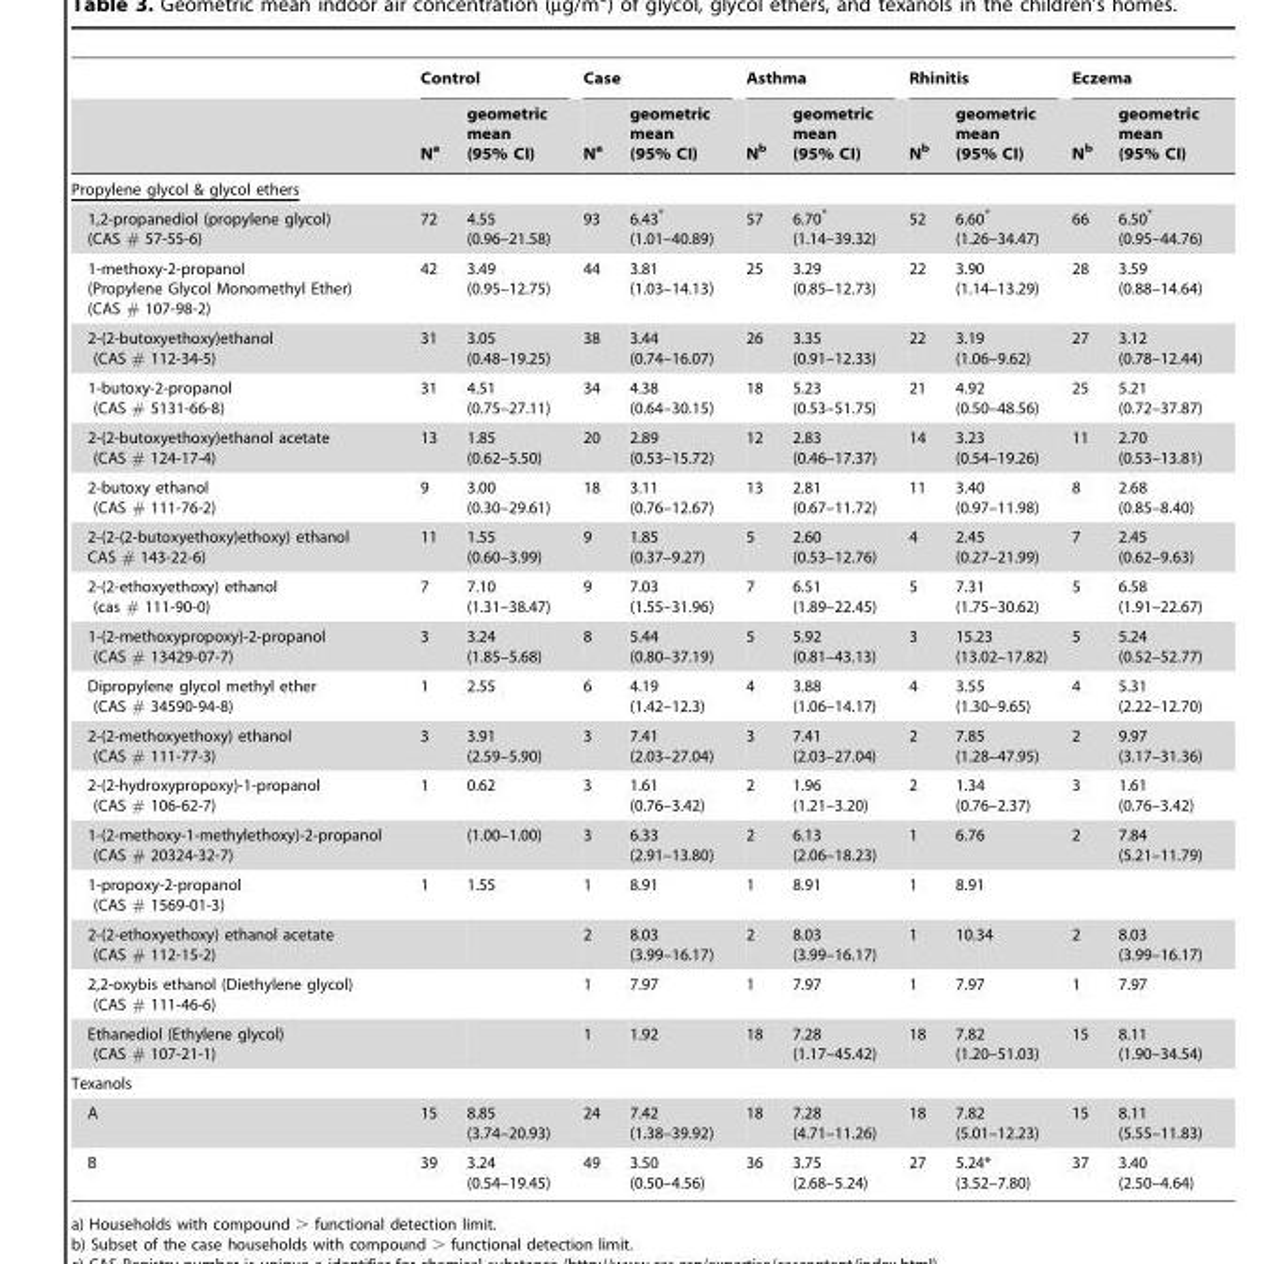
<table><thead><tr><td rowspan="2"></td><td colspan="2">Control</td><td colspan="2">Case</td><td colspan="2">Asthma</td><td colspan="2">Rhinitis</td><td colspan="2">Eczema</td></tr><tr><td>N<sup>a</sup></td><td>geometric mean (95% CI)</td><td>N<sup>a</sup></td><td>geometric mean (95% CI)</td><td>N<sup>b</sup></td><td>geometric mean (95% CI)</td><td>N<sup>b</sup></td><td>geometric mean (95% CI)</td><td>N<sup>b</sup></td><td>geometric mean (95% CI)</td></tr></thead><tbody><tr><td colspan="11">Propylene glycol &amp; glycol ethers</td></tr><tr><td>1,2-propanediol (propylene glycol) (CAS # 57-55-6)</td><td>72</td><td>4.55 (0.96–21.58)</td><td>93</td><td>6.43* (1.01–40.89)</td><td>57</td><td>6.70* (1.14–39.32)</td><td>52</td><td>6.60* (1.26–34.47)</td><td>66</td><td>6.50* (0.95–44.76)</td></tr><tr><td>1-methoxy-2-propanol (Propylene Glycol Monomethyl Ether) (CAS # 107-98-2)</td><td>42</td><td>3.49 (0.95–12.75)</td><td>44</td><td>3.81 (1.03–14.13)</td><td>25</td><td>3.29 (0.85–12.73)</td><td>22</td><td>3.90 (1.14–13.29)</td><td>28</td><td>3.59 (0.88–14.64)</td></tr><tr><td>2-(2-butoxyethoxy)ethanol (CAS # 112-34-5)</td><td>31</td><td>3.05 (0.48–19.25)</td><td>38</td><td>3.44 (0.74–16.07)</td><td>26</td><td>3.35 (0.91–12.33)</td><td>22</td><td>3.19 (1.06–9.62)</td><td>27</td><td>3.12 (0.78–12.44)</td></tr><tr><td>1-butoxy-2-propanol (CAS # 5131-66-8)</td><td>31</td><td>4.51 (0.75–27.11)</td><td>34</td><td>4.38 (0.64–30.15)</td><td>18</td><td>5.23 (0.53–51.75)</td><td>21</td><td>4.92 (0.50–48.56)</td><td>25</td><td>5.21 (0.72–37.87)</td></tr><tr><td>2-(2-butoxyethoxy)ethanol acetate (CAS # 124-17-4)</td><td>13</td><td>1.85 (0.62–5.50)</td><td>20</td><td>2.89 (0.53–15.72)</td><td>12</td><td>2.83 (0.46–17.37)</td><td>14</td><td>3.23 (0.54–19.26)</td><td>11</td><td>2.70 (0.53–13.81)</td></tr><tr><td>2-butoxy ethanol (CAS # 111-76-2)</td><td>9</td><td>3.00 (0.30–29.61)</td><td>18</td><td>3.11 (0.76–12.67)</td><td>13</td><td>2.81 (0.67–11.72)</td><td>11</td><td>3.40 (0.97–11.98)</td><td>8</td><td>2.68 (0.85–8.40)</td></tr><tr><td>2-(2-(2-butoxyethoxy)ethoxy) ethanol CAS # 143-22-6)</td><td>11</td><td>1.55 (0.60–3.99)</td><td>9</td><td>1.85 (0.37–9.27)</td><td>5</td><td>2.60 (0.53–12.76)</td><td>4</td><td>2.45 (0.27–21.99)</td><td>7</td><td>2.45 (0.62–9.63)</td></tr><tr><td>2-(2-ethoxyethoxy) ethanol (cas # 111-90-0)</td><td>7</td><td>7.10 (1.31–38.47)</td><td>9</td><td>7.03 (1.55–31.96)</td><td>7</td><td>6.51 (1.89–22.45)</td><td>5</td><td>7.31 (1.75–30.62)</td><td>5</td><td>6.58 (1.91–22.67)</td></tr><tr><td>1-(2-methoxypropoxy)-2-propanol (CAS # 13429-07-7)</td><td>3</td><td>3.24 (1.85–5.68)</td><td>8</td><td>5.44 (0.80–37.19)</td><td>5</td><td>5.92 (0.81–43.13)</td><td>3</td><td>15.23 (13.02–17.82)</td><td>5</td><td>5.24 (0.52–52.77)</td></tr><tr><td>Dipropylene glycol methyl ether (CAS # 34590-94-8)</td><td>1</td><td>2.55</td><td>6</td><td>4.19 (1.42–12.3)</td><td>4</td><td>3.88 (1.06–14.17)</td><td>4</td><td>3.55 (1.30–9.65)</td><td>4</td><td>5.31 (2.22–12.70)</td></tr><tr><td>2-(2-methoxyethoxy) ethanol (CAS # 111-77-3)</td><td>3</td><td>3.91 (2.59–5.90)</td><td>3</td><td>7.41 (2.03–27.04)</td><td>3</td><td>7.41 (2.03–27.04)</td><td>2</td><td>7.85 (1.28–47.95)</td><td>2</td><td>9.97 (3.17–31.36)</td></tr><tr><td>2-(2-hydroxypropoxy)-1-propanol (CAS # 106-62-7)</td><td>1</td><td>0.62</td><td>3</td><td>1.61 (0.76–3.42)</td><td>2</td><td>1.96 (1.21–3.20)</td><td>2</td><td>1.34 (0.76–2.37)</td><td>3</td><td>1.61 (0.76–3.42)</td></tr><tr><td>1-(2-methoxy-1-methylethoxy)-2-propanol (CAS # 20324-32-7)</td><td></td><td>(1.00–1.00)</td><td>3</td><td>6.33 (2.91–13.80)</td><td>2</td><td>6.13 (2.06–18.23)</td><td>1</td><td>6.76</td><td>2</td><td>7.84 (5.21–11.79)</td></tr><tr><td>1-propoxy-2-propanol (CAS # 1569-01-3)</td><td>1</td><td>1.55</td><td>1</td><td>8.91</td><td>1</td><td>8.91</td><td>1</td><td>8.91</td><td></td><td></td></tr><tr><td>2-(2-ethoxyethoxy) ethanol acetate (CAS # 112-15-2)</td><td></td><td></td><td>2</td><td>8.03 (3.99–16.17)</td><td>2</td><td>8.03 (3.99–16.17)</td><td>1</td><td>10.34</td><td>2</td><td>8.03 (3.99–16.17)</td></tr><tr><td>2,2-oxybis ethanol (Diethylene glycol) (CAS # 111-46-6)</td><td></td><td></td><td>1</td><td>7.97</td><td>1</td><td>7.97</td><td>1</td><td>7.97</td><td>1</td><td>7.97</td></tr><tr><td>Ethanediol (Ethylene glycol) (CAS # 107-21-1)</td><td></td><td></td><td>1</td><td>1.92</td><td>18</td><td>7.28 (1.17–45.42)</td><td>18</td><td>7.82 (1.20–51.03)</td><td>15</td><td>8.11 (1.90–34.54)</td></tr><tr><td colspan="11">Texanols</td></tr><tr><td>A</td><td>15</td><td>8.85 (3.74–20.93)</td><td>24</td><td>7.42 (1.38–39.92)</td><td>18</td><td>7.28 (4.71–11.26)</td><td>18</td><td>7.82 (5.01–12.23)</td><td>15</td><td>8.11 (5.55–11.83)</td></tr><tr><td>B</td><td>39</td><td>3.24 (0.54–19.45)</td><td>49</td><td>3.50 (0.50–4.56)</td><td>36</td><td>3.75 (2.68–5.24)</td><td>27</td><td>5.24* (3.52–7.80)</td><td>37</td><td>3.40 (2.50–4.64)</td></tr></tbody></table>